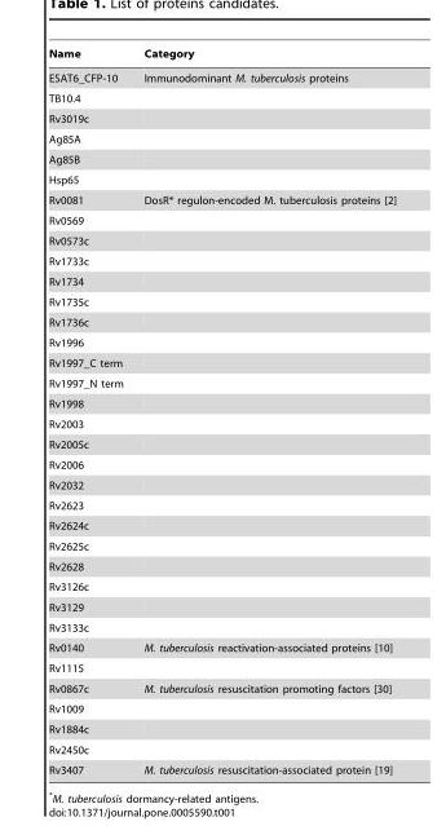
<table><thead><tr><td>Name</td><td>Category</td></tr></thead><tbody><tr><td>ESAT6_CFP-10</td><td>Immunodominant M. tuberculosis proteins</td></tr><tr><td colspan="2">TB10.4</td></tr><tr><td colspan="2">Rv3019c</td></tr><tr><td colspan="2">Ag85A</td></tr><tr><td colspan="2">Ag85B</td></tr><tr><td colspan="2">Hsp65</td></tr><tr><td>Rv0081</td><td>DosR* regulon-encoded M. tuberculosis proteins [2]</td></tr><tr><td colspan="2">Rv0569</td></tr><tr><td colspan="2">Rv0573c</td></tr><tr><td colspan="2">Rv1733c</td></tr><tr><td colspan="2">Rv1734</td></tr><tr><td colspan="2">Rv1735c</td></tr><tr><td colspan="2">Rv1736c</td></tr><tr><td colspan="2">Rv1996</td></tr><tr><td colspan="2">Rv1997_C term</td></tr><tr><td colspan="2">Rv1997_N term</td></tr><tr><td colspan="2">Rv1998</td></tr><tr><td colspan="2">Rv2003</td></tr><tr><td colspan="2">Rv2005c</td></tr><tr><td colspan="2">Rv2006</td></tr><tr><td colspan="2">Rv2032</td></tr><tr><td colspan="2">Rv2623</td></tr><tr><td colspan="2">Rv2624c</td></tr><tr><td colspan="2">Rv2625c</td></tr><tr><td colspan="2">Rv2628</td></tr><tr><td colspan="2">Rv3126c</td></tr><tr><td colspan="2">Rv3129</td></tr><tr><td colspan="2">Rv3133c</td></tr><tr><td>Rv0140</td><td>M. tuberculosis reactivation-associated proteins [10]</td></tr><tr><td colspan="2">Rv1115</td></tr><tr><td>Rv0867c</td><td>M. tuberculosis resuscitation promoting factors [30]</td></tr><tr><td colspan="2">Rv1009</td></tr><tr><td colspan="2">Rv1884c</td></tr><tr><td colspan="2">Rv2450c</td></tr><tr><td>Rv3407</td><td>M. tuberculosis resuscitation-associated protein [19]</td></tr></tbody></table>